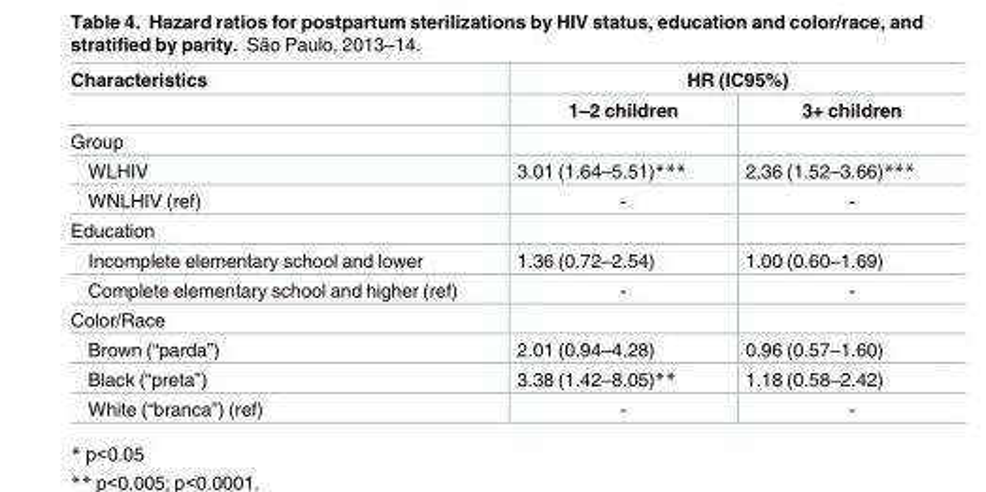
<table><thead><tr><td rowspan="2">Characteristics</td><td colspan="2">HR (IC95%)</td></tr><tr><td>1–2 children</td><td>3+ children</td></tr></thead><tbody><tr><td colspan="3">Group</td></tr><tr><td>WLHIV</td><td>3.01 (1.64–5.51)***</td><td>2.36 (1.52–3.66)***</td></tr><tr><td>WNLHIV (ref)</td><td>-</td><td>-</td></tr><tr><td colspan="3">Education</td></tr><tr><td>Incomplete elementary school and lower</td><td>1.36 (0.72–2.54)</td><td>1.00 (0.60–1.69)</td></tr><tr><td>Complete elementary school and higher (ref)</td><td>-</td><td>-</td></tr><tr><td colspan="3">Color/Race</td></tr><tr><td>Brown (“parda”)</td><td>2.01 (0.94–4.28)</td><td>0.96 (0.57–1.60)</td></tr><tr><td>Black (“preta”)</td><td>3.38 (1.42–8.05)**</td><td>1.18 (0.58–2.42)</td></tr><tr><td>White (“branca”) (ref)</td><td>-</td><td>-</td></tr></tbody></table>